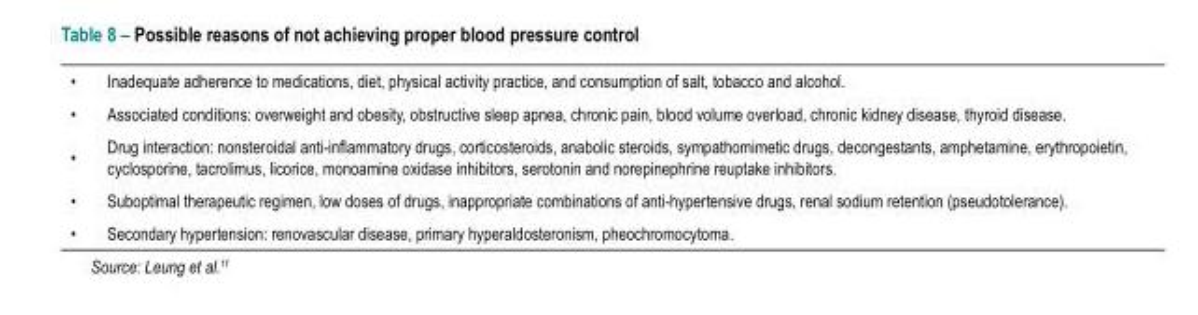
<table><tbody><tr><td>•</td><td>Inadequate adherence to medications, diet, physical activity practice, and consumption of salt, tobacco and alcohol.</td></tr><tr><td>•</td><td>Associated conditions: overweight and obesity, obstructive sleep apnea, chronic pain, blood volume overload, chronic kidney disease, thyroid disease.</td></tr><tr><td>•</td><td>Drug interaction: nonsteroidal anti-inflammatory drugs, corticosteroids, anabolic steroids, sympathomimetic drugs, decongestants, amphetamine, erythropoietin, cyclosporine, tacrolimus, licorice, monoamine oxidase inhibitors, serotonin and norepinephrine reuptake inhibitors.</td></tr><tr><td>•</td><td>Suboptimal therapeutic regimen, low doses of drugs, inappropriate combinations of anti-hypertensive drugs, renal sodium retention (pseudotolerance).</td></tr><tr><td>•</td><td>Secondary hypertension: renovascular disease, primary hyperaldosteronism, pheochromocytoma.</td></tr></tbody></table>